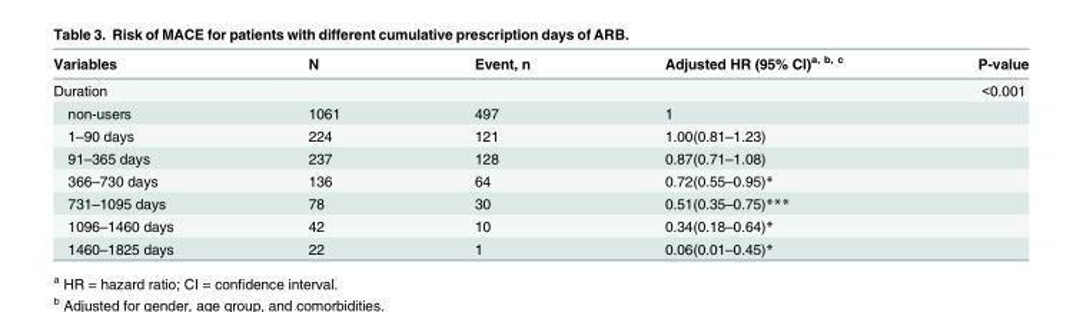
<table><thead><tr><td>Variables</td><td>N</td><td>Event, n</td><td>Adjusted HR (95% CI)<sup>a, b, c</sup></td><td>P-value</td></tr></thead><tbody><tr><td>Duration</td><td></td><td></td><td></td><td>&lt;0.001</td></tr><tr><td>non-users</td><td>1061</td><td>497</td><td>1</td><td></td></tr><tr><td>1–90 days</td><td>224</td><td>121</td><td>1.00(0.81–1.23)</td><td></td></tr><tr><td>91–365 days</td><td>237</td><td>128</td><td>0.87(0.71–1.08)</td><td></td></tr><tr><td>366–730 days</td><td>136</td><td>64</td><td>0.72(0.55–0.95)*</td><td></td></tr><tr><td>731–1095 days</td><td>78</td><td>30</td><td>0.51(0.35–0.75)***</td><td></td></tr><tr><td>1096–1460 days</td><td>42</td><td>10</td><td>0.34(0.18–0.64)*</td><td></td></tr><tr><td>1460–1825 days</td><td>22</td><td>1</td><td>0.06(0.01–0.45)*</td><td></td></tr></tbody></table>